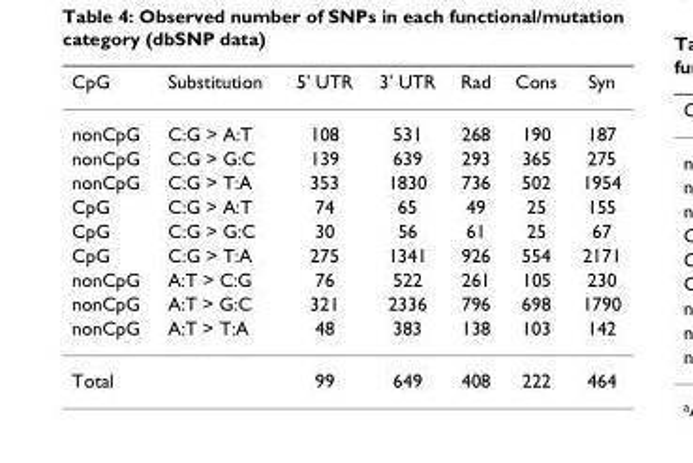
<table><thead><tr><td>CpG</td><td>Substitution</td><td>5&#x27; UTR</td><td>3&#x27; UTR</td><td>Rad</td><td>Cons</td><td>Syn</td></tr></thead><tbody><tr><td>nonCpG</td><td>C:G &gt; A:T</td><td>108</td><td>531</td><td>268</td><td>190</td><td>187</td></tr><tr><td>nonCpG</td><td>C:G &gt; G:C</td><td>139</td><td>639</td><td>293</td><td>365</td><td>275</td></tr><tr><td>nonCpG</td><td>C:G &gt; T:A</td><td>353</td><td>1830</td><td>736</td><td>502</td><td>1954</td></tr><tr><td>CpG</td><td>C:G &gt; A:T</td><td>74</td><td>65</td><td>49</td><td>25</td><td>155</td></tr><tr><td>CpG</td><td>C:G &gt; G:C</td><td>30</td><td>56</td><td>61</td><td>25</td><td>67</td></tr><tr><td>CpG</td><td>C:G &gt; T:A</td><td>275</td><td>1341</td><td>926</td><td>554</td><td>2171</td></tr><tr><td>nonCpG</td><td>A:T &gt; C:G</td><td>76</td><td>522</td><td>261</td><td>105</td><td>230</td></tr><tr><td>nonCpG</td><td>A:T &gt; G:C</td><td>321</td><td>2336</td><td>796</td><td>698</td><td>1790</td></tr><tr><td>nonCpG</td><td>A:T &gt; T:A</td><td>48</td><td>383</td><td>138</td><td>103</td><td>142</td></tr><tr><td>Total</td><td></td><td>99</td><td>649</td><td>408</td><td>222</td><td>464</td></tr></tbody></table>